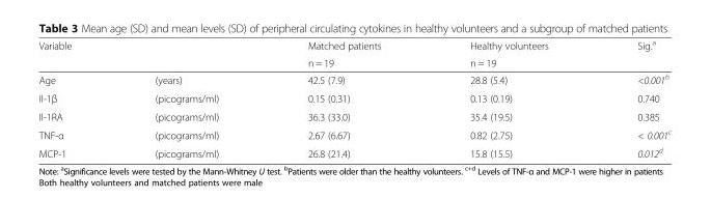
<table><thead><tr><td rowspan="2" colspan="2">Variable</td><td rowspan="3">Matched patients n = 19 42.5 (7.9)</td><td rowspan="3">Healthy volunteers n = 19 28.8 (5.4)</td><td rowspan="3">Sig.<sup>a</sup> &lt;0.001<sup>b</sup></td></tr><tr></tr><tr><td>Age</td><td>(years)</td></tr></thead><tbody><tr><td>Il-1β</td><td>(picograms/ml)</td><td>0.15 (0.31)</td><td>0.13 (0.19)</td><td>0.740</td></tr><tr><td>Il-1RA</td><td>(picograms/ml)</td><td>36.3 (33.0)</td><td>35.4 (19.5)</td><td>0.385</td></tr><tr><td>TNF-α</td><td>(picograms/ml)</td><td>2.67 (6.67)</td><td>0.82 (2.75)</td><td>&lt; 0.001<sup>c</sup></td></tr><tr><td>MCP-1</td><td>(picograms/ml)</td><td>26.8 (21.4)</td><td>15.8 (15.5)</td><td>0.012<sup>d</sup></td></tr></tbody></table>